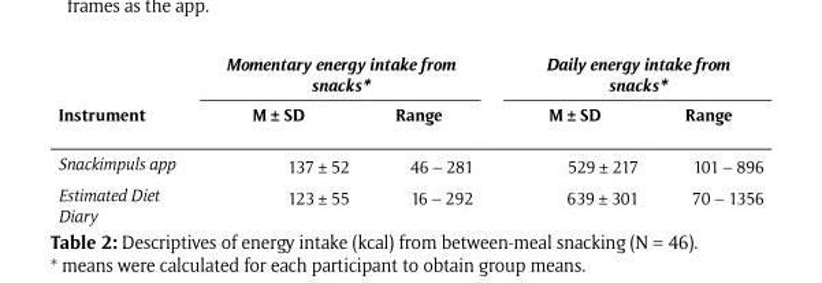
<table><thead><tr><td rowspan="2">Instrument</td><td colspan="2">Momentary energy intake from snacks*</td><td colspan="2">Daily energy intake from snacks*</td></tr><tr><td>M ± SD</td><td>Range</td><td>M ± SD</td><td>Range</td></tr></thead><tbody><tr><td>Snackimpuls app</td><td>137 ± 52</td><td>46 – 281</td><td>529 ± 217</td><td>101 – 896</td></tr><tr><td>Estimated Diet Diary</td><td>123 ± 55</td><td>16 – 292</td><td>639 ± 301</td><td>70 – 1356</td></tr></tbody></table>